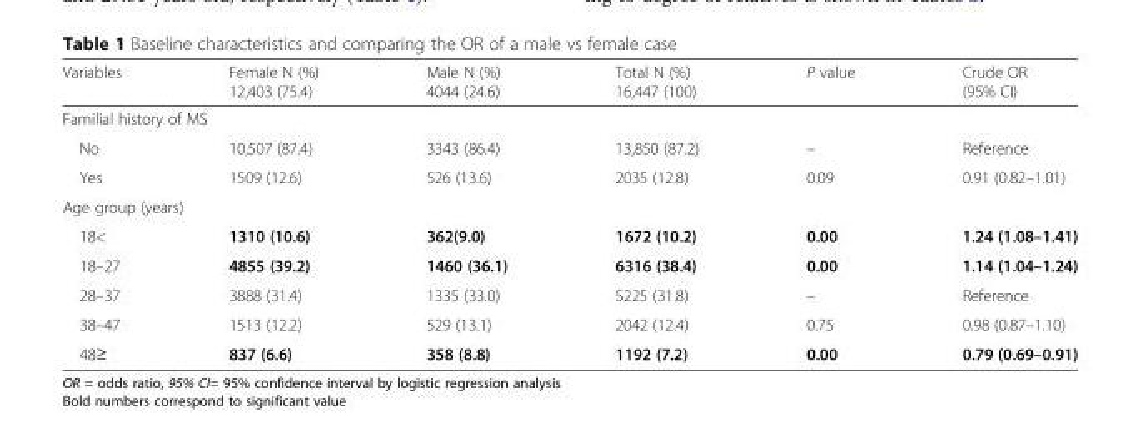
<table><thead><tr><td>Variables</td><td>Female N (%) 12,403 (75.4)</td><td>Male N (%) 4044 (24.6)</td><td>Total N (%) 16,447 (100)</td><td>P value</td><td>Crude OR (95% CI)</td></tr></thead><tbody><tr><td colspan="6">Familial history of MS</td></tr><tr><td>No</td><td>10,507 (87.4)</td><td>3343 (86.4)</td><td>13,850 (87.2)</td><td>–</td><td>Reference</td></tr><tr><td>Yes</td><td>1509 (12.6)</td><td>526 (13.6)</td><td>2035 (12.8)</td><td>0.09</td><td>0.91 (0.82–1.01)</td></tr><tr><td colspan="6">Age group (years)</td></tr><tr><td>18&lt;</td><td>1310 (10.6)</td><td>362(9.0)</td><td>1672 (10.2)</td><td>0.00</td><td>1.24 (1.08–1.41)</td></tr><tr><td>18–27</td><td>4855 (39.2)</td><td>1460 (36.1)</td><td>6316 (38.4)</td><td>0.00</td><td>1.14 (1.04–1.24)</td></tr><tr><td>28–37</td><td>3888 (31.4)</td><td>1335 (33.0)</td><td>5225 (31.8)</td><td>–</td><td>Reference</td></tr><tr><td>38–47</td><td>1513 (12.2)</td><td>529 (13.1)</td><td>2042 (12.4)</td><td>0.75</td><td>0.98 (0.87–1.10)</td></tr><tr><td>48≥</td><td>837 (6.6)</td><td>358 (8.8)</td><td>1192 (7.2)</td><td>0.00</td><td>0.79 (0.69–0.91)</td></tr></tbody></table>